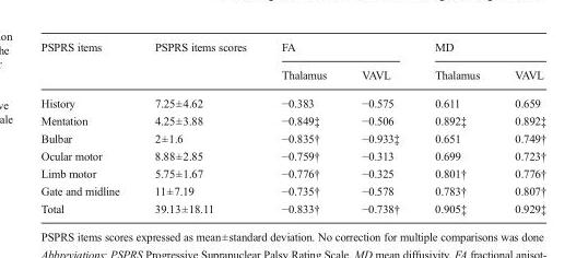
<table><thead><tr><td rowspan="2">PSPRS items</td><td rowspan="2">PSPRS items scores</td><td colspan="2">FA</td><td colspan="2">MD</td></tr><tr><td>Thalamus</td><td>VAVL</td><td>Thalamus</td><td>VAVL</td></tr></thead><tbody><tr><td>History</td><td>7.25±4.62</td><td>−0.383</td><td>−0.575</td><td>0.611</td><td>0.659</td></tr><tr><td>Mentation</td><td>4.25±3.88</td><td>−0.849‡</td><td>−0.506</td><td>0.892‡</td><td>0.892‡</td></tr><tr><td>Bulbar</td><td>2±1.6</td><td>−0.835†</td><td>−0.933‡</td><td>0.651</td><td>0.749†</td></tr><tr><td>Ocular motor</td><td>8.88±2.85</td><td>−0.759†</td><td>−0.313</td><td>0.699</td><td>0.723†</td></tr><tr><td>Limb motor</td><td>5.75±1.67</td><td>−0.776†</td><td>−0.325</td><td>0.801†</td><td>0.776†</td></tr><tr><td>Gate and midline</td><td>11±7.19</td><td>−0.735†</td><td>−0.578</td><td>0.783†</td><td>0.807†</td></tr><tr><td>Total</td><td>39.13±18.11</td><td>−0.833†</td><td>−0.738†</td><td>0.905‡</td><td>0.929‡</td></tr></tbody></table>